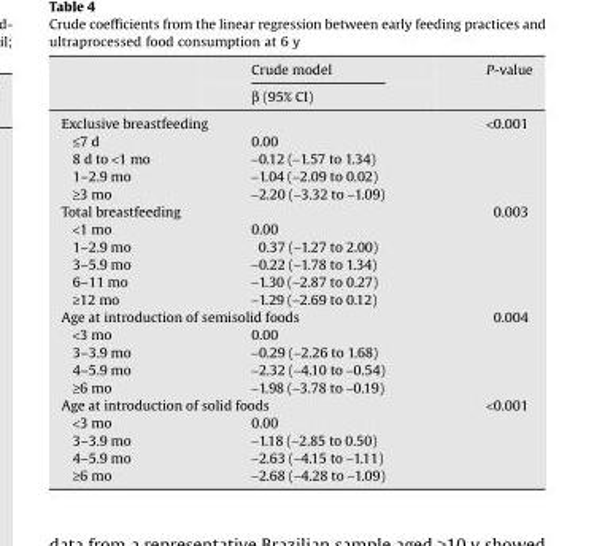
<table><thead><tr><td rowspan="2"></td><td rowspan="2">Crude model β (95% CI)</td><td rowspan="2">P-value</td></tr><tr></tr></thead><tbody><tr><td colspan="2">Exclusive breastfeeding</td><td>&lt;0.001</td></tr><tr><td>≤7 d</td><td>0.00</td><td></td></tr><tr><td>8 d to &lt;1 mo</td><td>−0.12 (−1.57 to 1.34)</td><td></td></tr><tr><td>1–2.9 mo</td><td>−1.04 (−2.09 to 0.02)</td><td></td></tr><tr><td>≥3 mo</td><td>−2.20 (−3.32 to −1.09)</td><td></td></tr><tr><td colspan="2">Total breastfeeding</td><td>0.003</td></tr><tr><td>&lt;1 mo</td><td>0.00</td><td></td></tr><tr><td>1–2.9 mo</td><td>0.37 (−1.27 to 2.00)</td><td></td></tr><tr><td>3–5.9 mo</td><td>−0.22 (−1.78 to 1.34)</td><td></td></tr><tr><td>6–11 mo</td><td>−1.30 (−2.87 to 0.27)</td><td></td></tr><tr><td>≥12 mo</td><td>−1.29 (−2.69 to 0.12)</td><td></td></tr><tr><td colspan="2">Age at introduction of semisolid foods</td><td>0.004</td></tr><tr><td>&lt;3 mo</td><td>0.00</td><td></td></tr><tr><td>3–3.9 mo</td><td>−0.29 (−2.26 to 1.68)</td><td></td></tr><tr><td>4–5.9 mo</td><td>−2.32 (−4.10 to −0.54)</td><td></td></tr><tr><td>≥6 mo</td><td>−1.98 (−3.78 to −0.19)</td><td></td></tr><tr><td colspan="2">Age at introduction of solid foods</td><td>&lt;0.001</td></tr><tr><td>&lt;3 mo</td><td>0.00</td><td></td></tr><tr><td>3–3.9 mo</td><td>−1.18 (−2.85 to 0.50)</td><td></td></tr><tr><td>4–5.9 mo</td><td>−2.63 (−4.15 to −1.11)</td><td></td></tr><tr><td>≥6 mo</td><td>−2.68 (−4.28 to −1.09)</td><td></td></tr></tbody></table>